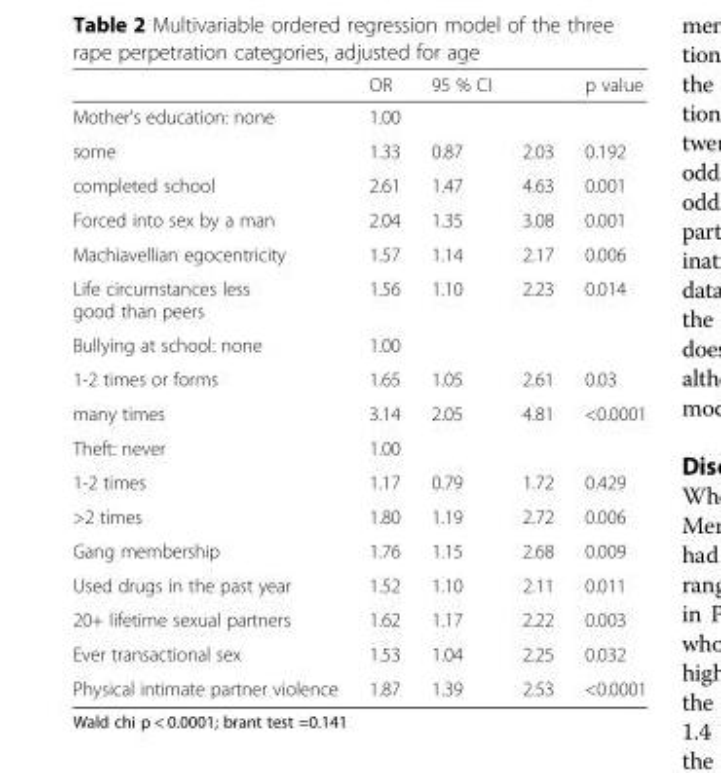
<table><thead><tr><td></td><td>OR</td><td>95 % CI</td><td></td><td>p value</td></tr></thead><tbody><tr><td>Mother&#x27;s education: none</td><td>1.00</td><td></td><td></td><td></td></tr><tr><td>some</td><td>1.33</td><td>0.87</td><td>2.03</td><td>0.192</td></tr><tr><td>completed school</td><td>2.61</td><td>1.47</td><td>4.63</td><td>0.001</td></tr><tr><td>Forced into sex by a man</td><td>2.04</td><td>1.35</td><td>3.08</td><td>0.001</td></tr><tr><td>Machiavellian egocentricity</td><td>1.57</td><td>1.14</td><td>2.17</td><td>0.006</td></tr><tr><td>Life circumstances less good than peers</td><td>1.56</td><td>1.10</td><td>2.23</td><td>0.014</td></tr><tr><td>Bullying at school: none</td><td>1.00</td><td></td><td></td><td></td></tr><tr><td>1-2 times or forms</td><td>1.65</td><td>1.05</td><td>2.61</td><td>0.03</td></tr><tr><td>many times</td><td>3.14</td><td>2.05</td><td>4.81</td><td>&lt;0.0001</td></tr><tr><td>Theft: never</td><td>1.00</td><td></td><td></td><td></td></tr><tr><td>1-2 times</td><td>1.17</td><td>0.79</td><td>1.72</td><td>0.429</td></tr><tr><td>&gt;2 times</td><td>1.80</td><td>1.19</td><td>2.72</td><td>0.006</td></tr><tr><td>Gang membership</td><td>1.76</td><td>1.15</td><td>2.68</td><td>0.009</td></tr><tr><td>Used drugs in the past year</td><td>1.52</td><td>1.10</td><td>2.11</td><td>0.011</td></tr><tr><td>20+ lifetime sexual partners</td><td>1.62</td><td>1.17</td><td>2.22</td><td>0.003</td></tr><tr><td>Ever transactional sex</td><td>1.53</td><td>1.04</td><td>2.25</td><td>0.032</td></tr><tr><td>Physical intimate partner violence</td><td>1.87</td><td>1.39</td><td>2.53</td><td>&lt;0.0001</td></tr></tbody></table>